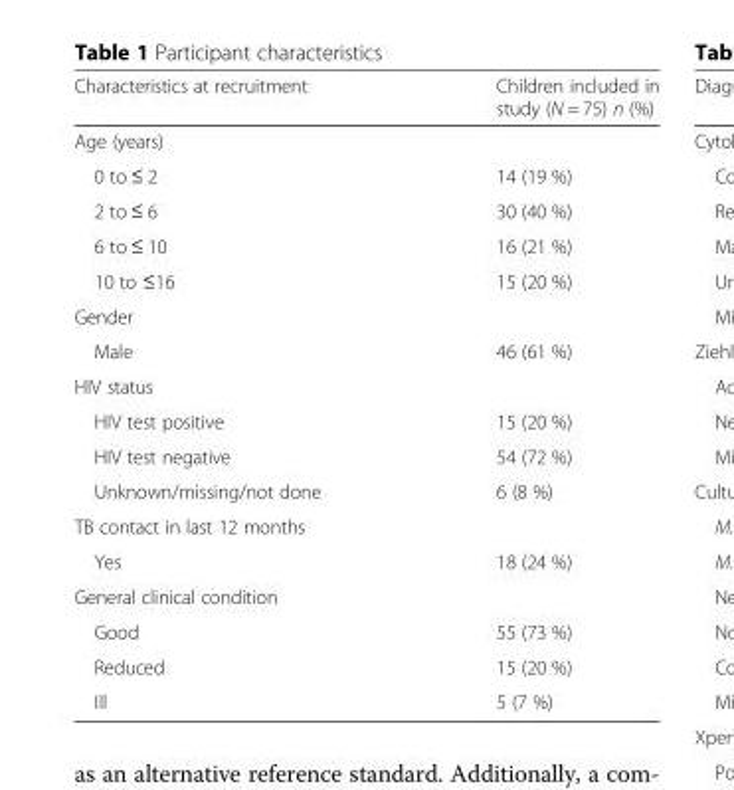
<table><thead><tr><td>Characteristics at recruitment</td><td>Children included in study (N = 75) n (%)</td></tr></thead><tbody><tr><td colspan="2">Age (years)</td></tr><tr><td>0 to ≤ 2</td><td>14 (19 %)</td></tr><tr><td>2 to ≤ 6</td><td>30 (40 %)</td></tr><tr><td>6 to ≤ 10</td><td>16 (21 %)</td></tr><tr><td>10 to ≤16</td><td>15 (20 %)</td></tr><tr><td colspan="2">Gender</td></tr><tr><td>Male</td><td>46 (61 %)</td></tr><tr><td colspan="2">HIV status</td></tr><tr><td>HIV test positive</td><td>15 (20 %)</td></tr><tr><td>HIV test negative</td><td>54 (72 %)</td></tr><tr><td>Unknown/missing/not done</td><td>6 (8 %)</td></tr><tr><td colspan="2">TB contact in last 12 months</td></tr><tr><td>Yes</td><td>18 (24 %)</td></tr><tr><td colspan="2">General clinical condition</td></tr><tr><td>Good</td><td>55 (73 %)</td></tr><tr><td>Reduced</td><td>15 (20 %)</td></tr><tr><td>Ill</td><td>5 (7 %)</td></tr></tbody></table>